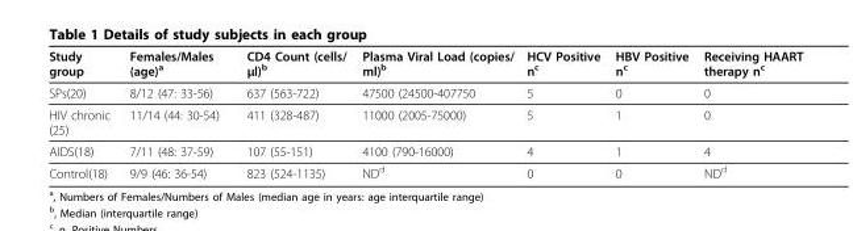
<table><thead><tr><td>Study group</td><td>Females/Males (age)<sup>a</sup></td><td>CD4 Count (cells/ μl)<sup>b</sup></td><td>Plasma Viral Load (copies/ ml)<sup>b</sup></td><td>HCV Positive n<sup>c</sup></td><td>HBV Positive n<sup>c</sup></td><td>Receiving HAART therapy n<sup>c</sup></td></tr></thead><tbody><tr><td>SPs(20)</td><td>8/12 (47: 33-56)</td><td>637 (563-722)</td><td>47500 (24500-407750</td><td>5</td><td>0</td><td>0</td></tr><tr><td>HIV chronic (25)</td><td>11/14 (44: 30-54)</td><td>411 (328-487)</td><td>11000 (2005-75000)</td><td>5</td><td>1</td><td>0</td></tr><tr><td>AIDS(18)</td><td>7/11 (48: 37-59)</td><td>107 (55-151)</td><td>4100 (790-16000)</td><td>4</td><td>1</td><td>4</td></tr><tr><td>Control(18)</td><td>9/9 (46: 36-54)</td><td>823 (524-1135)</td><td>ND<sup>d</sup></td><td>0</td><td>0</td><td>ND<sup>d</sup></td></tr></tbody></table>